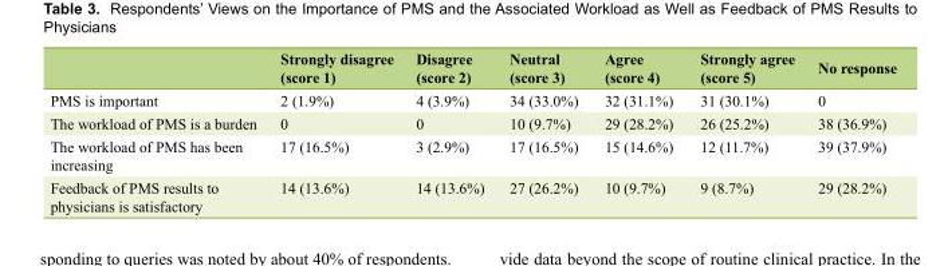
<table><thead><tr><td></td><td>Strongly disagree (score 1)</td><td>Disagree (score 2)</td><td>Neutral (score 3)</td><td>Agree (score 4)</td><td>Strongly agree (score 5)</td><td>No response</td></tr></thead><tbody><tr><td>PMS is important</td><td>2 (1.9%)</td><td>4 (3.9%)</td><td>34 (33.0%)</td><td>32 (31.1%)</td><td>31 (30.1%)</td><td>0</td></tr><tr><td>The workload of PMS is a burden</td><td>0</td><td>0</td><td>10 (9.7%)</td><td>29 (28.2%)</td><td>26 (25.2%)</td><td>38 (36.9%)</td></tr><tr><td>The workload of PMS has been increasing</td><td>17 (16.5%)</td><td>3 (2.9%)</td><td>17 (16.5%)</td><td>15 (14.6%)</td><td>12 (11.7%)</td><td>39 (37.9%)</td></tr><tr><td>Feedback of PMS results to physicians is satisfactory</td><td>14 (13.6%)</td><td>14 (13.6%)</td><td>27 (26.2%)</td><td>10 (9.7%)</td><td>9 (8.7%)</td><td>29 (28.2%)</td></tr></tbody></table>